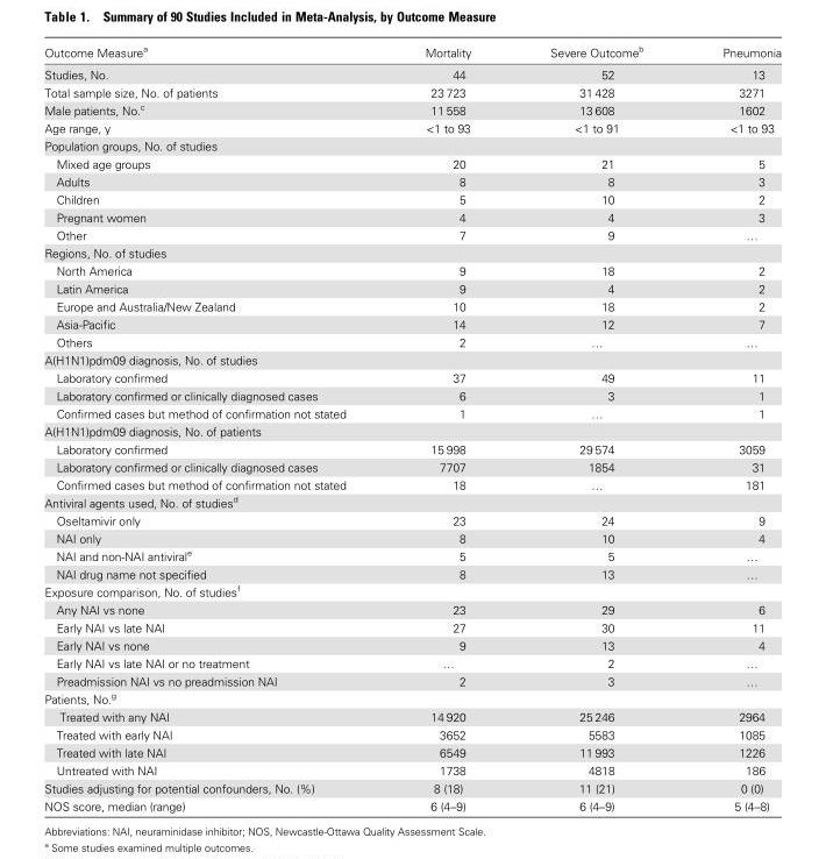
<table><thead><tr><td>Outcome Measure<sup>a</sup></td><td>Mortality</td><td>Severe Outcome<sup>b</sup></td><td>Pneumonia</td></tr></thead><tbody><tr><td>Studies, No.</td><td>44</td><td>52</td><td>13</td></tr><tr><td>Total sample size, No. of patients</td><td>23 723</td><td>31 428</td><td>3271</td></tr><tr><td>Male patients, No.<sup>c</sup></td><td>11 558</td><td>13 608</td><td>1602</td></tr><tr><td>Age range, y</td><td>&lt;1 to 93</td><td>&lt;1 to 91</td><td>&lt;1 to 93</td></tr><tr><td colspan="4">Population groups, No. of studies</td></tr><tr><td>Mixed age groups</td><td>20</td><td>21</td><td>5</td></tr><tr><td>Adults</td><td>8</td><td>8</td><td>3</td></tr><tr><td>Children</td><td>5</td><td>10</td><td>2</td></tr><tr><td>Pregnant women</td><td>4</td><td>4</td><td>3</td></tr><tr><td>Other</td><td>7</td><td>9</td><td>…</td></tr><tr><td colspan="4">Regions, No. of studies</td></tr><tr><td>North America</td><td>9</td><td>18</td><td>2</td></tr><tr><td>Latin America</td><td>9</td><td>4</td><td>2</td></tr><tr><td>Europe and Australia/New Zealand</td><td>10</td><td>18</td><td>2</td></tr><tr><td>Asia-Pacific</td><td>14</td><td>12</td><td>7</td></tr><tr><td>Others</td><td>2</td><td>…</td><td>…</td></tr><tr><td colspan="4">A(H1N1)pdm09 diagnosis, No. of studies</td></tr><tr><td>Laboratory confirmed</td><td>37</td><td>49</td><td>11</td></tr><tr><td>Laboratory confirmed or clinically diagnosed cases</td><td>6</td><td>3</td><td>1</td></tr><tr><td>Confirmed cases but method of confirmation not stated</td><td>1</td><td>…</td><td>1</td></tr><tr><td colspan="4">A(H1N1)pdm09 diagnosis, No. of patients</td></tr><tr><td>Laboratory confirmed</td><td>15 998</td><td>29 574</td><td>3059</td></tr><tr><td>Laboratory confirmed or clinically diagnosed cases</td><td>7707</td><td>1854</td><td>31</td></tr><tr><td>Confirmed cases but method of confirmation not stated</td><td>18</td><td>…</td><td>181</td></tr><tr><td colspan="4">Antiviral agents used, No. of studies<sup>d</sup></td></tr><tr><td>Oseltamivir only</td><td>23</td><td>24</td><td>9</td></tr><tr><td>NAI only</td><td>8</td><td>10</td><td>4</td></tr><tr><td>NAI and non-NAI antiviral<sup>e</sup></td><td>5</td><td>5</td><td>…</td></tr><tr><td>NAI drug name not specified</td><td>8</td><td>13</td><td>…</td></tr><tr><td colspan="4">Exposure comparison, No. of studies<sup>f</sup></td></tr><tr><td>Any NAI vs none</td><td>23</td><td>29</td><td>6</td></tr><tr><td>Early NAI vs late NAI</td><td>27</td><td>30</td><td>11</td></tr><tr><td>Early NAI vs none</td><td>9</td><td>13</td><td>4</td></tr><tr><td>Early NAI vs late NAI or no treatment</td><td>…</td><td>2</td><td>…</td></tr><tr><td>Preadmission NAI vs no preadmission NAI</td><td>2</td><td>3</td><td>…</td></tr><tr><td colspan="4">Patients, No.<sup>g</sup></td></tr><tr><td>Treated with any NAI</td><td>14 920</td><td>25 246</td><td>2964</td></tr><tr><td>Treated with early NAI</td><td>3652</td><td>5583</td><td>1085</td></tr><tr><td>Treated with late NAI</td><td>6549</td><td>11 993</td><td>1226</td></tr><tr><td>Untreated with NAI</td><td>1738</td><td>4818</td><td>186</td></tr><tr><td>Studies adjusting for potential confounders, No. (%)</td><td>8 (18)</td><td>11 (21)</td><td>0 (0)</td></tr><tr><td>NOS score, median (range)</td><td>6 (4–9)</td><td>6 (4–9)</td><td>5 (4–8)</td></tr></tbody></table>